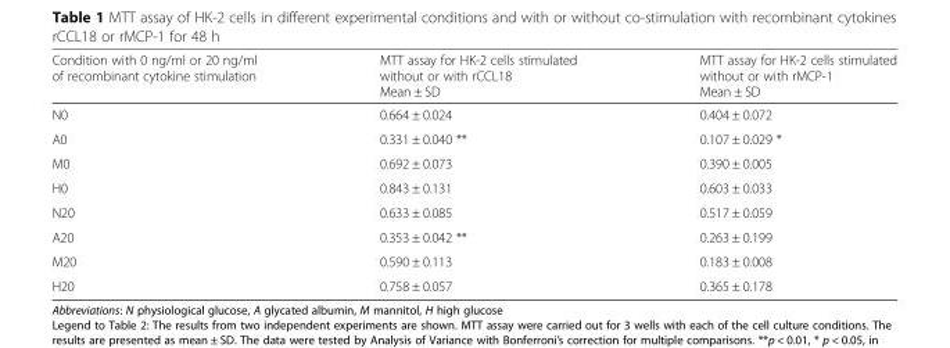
<table><thead><tr><td>Condition with 0 ng/ml or 20 ng/ml of recombinant cytokine stimulation</td><td>MTT assay for HK-2 cells stimulated without or with rCCL18 Mean ± SD</td><td>MTT assay for HK-2 cells stimulated without or with rMCP-1 Mean ± SD</td></tr></thead><tbody><tr><td>N0</td><td>0.664 ± 0.024</td><td>0.404 ± 0.072</td></tr><tr><td>A0</td><td>0.331 ± 0.040 **</td><td>0.107 ± 0.029 *</td></tr><tr><td>M0</td><td>0.692 ± 0.073</td><td>0.390 ± 0.005</td></tr><tr><td>H0</td><td>0.843 ± 0.131</td><td>0.603 ± 0.033</td></tr><tr><td>N20</td><td>0.633 ± 0.085</td><td>0.517 ± 0.059</td></tr><tr><td>A20</td><td>0.353 ± 0.042 **</td><td>0.263 ± 0.199</td></tr><tr><td>M20</td><td>0.590 ± 0.113</td><td>0.183 ± 0.008</td></tr><tr><td>H20</td><td>0.758 ± 0.057</td><td>0.365 ± 0.178</td></tr></tbody></table>